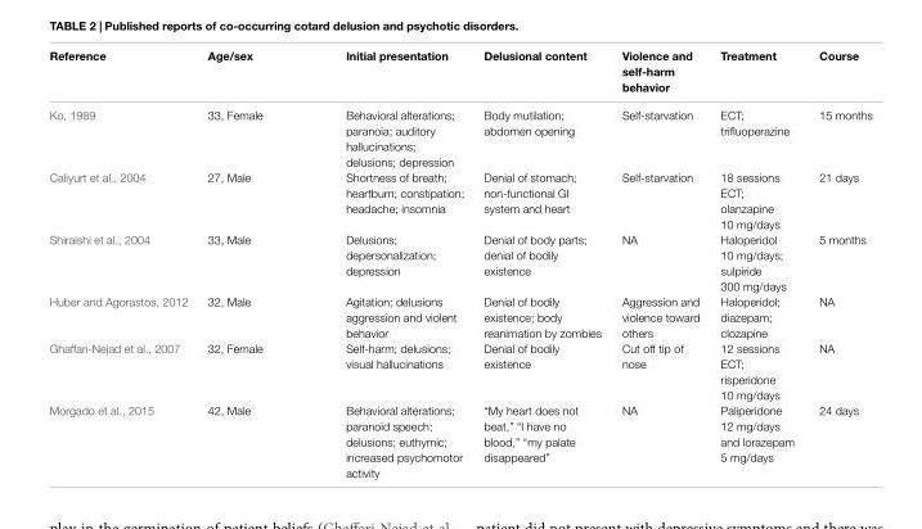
<table><thead><tr><td>Reference</td><td>Age/sex</td><td>Initial presentation</td><td>Delusional content</td><td>Violence and self-harm behavior</td><td>Treatment</td><td>Course</td></tr></thead><tbody><tr><td>Ko, 1989</td><td>33, Female</td><td>Behavioral alterations; paranoia; auditory hallucinations; delusions; depression</td><td>Body mutilation; abdomen opening</td><td>Self-starvation</td><td>ECT; trifluoperazine</td><td>15 months</td></tr><tr><td>Caliyurt et al., 2004</td><td>27, Male</td><td>Shortness of breath; heartburn; constipation; headache; insomnia</td><td>Denial of stomach; non-functional GI system and heart</td><td>Self-starvation</td><td>18 sessions ECT; olanzapine 10 mg/days</td><td>21 days</td></tr><tr><td>Shiraishi et al., 2004</td><td>33, Male</td><td>Delusions; depersonalization; depression</td><td>Denial of body parts; denial of bodily existence</td><td>NA</td><td>Haloperidol 10 mg/days; sulpiride 300 mg/days</td><td>5 months</td></tr><tr><td>Huber and Agorastos, 2012</td><td>32, Male</td><td>Agitation; delusions aggression and violent behavior</td><td>Denial of bodily existence; body reanimation by zombies</td><td>Aggression and violence toward others</td><td>Haloperidol; diazepam; clozapine</td><td>NA</td></tr><tr><td>Ghaffari-Nejad et al., 2007</td><td>32, Female</td><td>Self-harm; delusions; visual hallucinations</td><td>Denial of bodily existence</td><td>Cut off tip of nose</td><td>12 sessions ECT; risperidone 10 mg/days</td><td>NA</td></tr><tr><td>Morgado et al., 2015</td><td>42, Male</td><td>Behavioral alterations; paranoid speech; delusions; euthymic; increased psychomotor activity</td><td>“My heart does not beat,” “I have no blood,” “my palate disappeared”</td><td>NA</td><td>Paliperidone 12 mg/days and lorazepam 5 mg/days</td><td>24 days</td></tr></tbody></table>